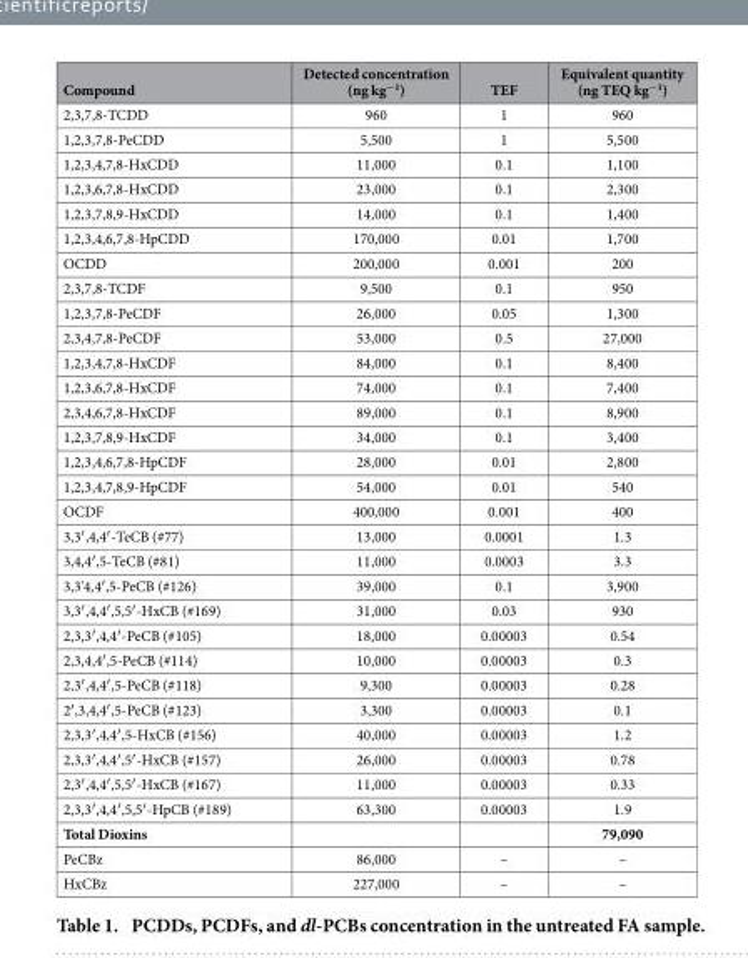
<table><thead><tr><td>Compound</td><td>Detected concentration (ng kg<sup>−1</sup>)</td><td>TEF</td><td>Equivalent quantity (ng TEQ kg<sup>−1</sup>)</td></tr></thead><tbody><tr><td>2,3,7,8-TCDD</td><td>960</td><td>1</td><td>960</td></tr><tr><td>1,2,3,7,8-PeCDD</td><td>5,500</td><td>1</td><td>5,500</td></tr><tr><td>1,2,3,4,7,8-HxCDD</td><td>11,000</td><td>0.1</td><td>1,100</td></tr><tr><td>1,2,3,6,7,8-HxCDD</td><td>23,000</td><td>0.1</td><td>2,300</td></tr><tr><td>1,2,3,7,8,9-HxCDD</td><td>14,000</td><td>0.1</td><td>1,400</td></tr><tr><td>1,2,3,4,6,7,8-HpCDD</td><td>170,000</td><td>0.01</td><td>1,700</td></tr><tr><td>OCDD</td><td>200,000</td><td>0.001</td><td>200</td></tr><tr><td>2,3,7,8-TCDF</td><td>9,500</td><td>0.1</td><td>950</td></tr><tr><td>1,2,3,7,8-PeCDF</td><td>26,000</td><td>0.05</td><td>1,300</td></tr><tr><td>2,3,4,7,8-PeCDF</td><td>53,000</td><td>0.5</td><td>27,000</td></tr><tr><td>1,2,3,4,7,8-HxCDF</td><td>84,000</td><td>0.1</td><td>8,400</td></tr><tr><td>1,2,3,6,7,8-HxCDF</td><td>74,000</td><td>0.1</td><td>7,400</td></tr><tr><td>2,3,4,6,7,8-HxCDF</td><td>89,000</td><td>0.1</td><td>8,900</td></tr><tr><td>1,2,3,7,8,9-HxCDF</td><td>34,000</td><td>0.1</td><td>3,400</td></tr><tr><td>1,2,3,4,6,7,8-HpCDF</td><td>28,000</td><td>0.01</td><td>2,800</td></tr><tr><td>1,2,3,4,7,8,9-HpCDF</td><td>54,000</td><td>0.01</td><td>540</td></tr><tr><td>OCDF</td><td>400,000</td><td>0.001</td><td>400</td></tr><tr><td>3,3′ ,4,4′ -TeCB (#77)</td><td>13,000</td><td>0.0001</td><td>1.3</td></tr><tr><td>3,4,4′ ,5-TeCB (#81)</td><td>11,000</td><td>0.0003</td><td>3.3</td></tr><tr><td>3,3&#x27;4,4′ ,5-PeCB (#126)</td><td>39,000</td><td>0.1</td><td>3,900</td></tr><tr><td>3,3′ ,4,4′ ,5,5′ -HxCB (#169)</td><td>31,000</td><td>0.03</td><td>930</td></tr><tr><td>2,3,3′ ,4,4′ -PeCB (#105)</td><td>18,000</td><td>0.00003</td><td>0.54</td></tr><tr><td>2,3,4,4′ ,5-PeCB (#114)</td><td>10,000</td><td>0.00003</td><td>0.3</td></tr><tr><td>2,3′ ,4,4′ ,5-PeCB (#118)</td><td>9,300</td><td>0.00003</td><td>0.28</td></tr><tr><td>2′ ,3,4,4′ ,5-PeCB (#123)</td><td>3,300</td><td>0.00003</td><td>0.1</td></tr><tr><td>2,3,3′ ,4,4′ ,5-HxCB (#156)</td><td>40,000</td><td>0.00003</td><td>1.2</td></tr><tr><td>2,3,3′ ,4,4′ ,5′ -HxCB (#157)</td><td>26,000</td><td>0.00003</td><td>0.78</td></tr><tr><td>2,3′ ,4,4′ ,5,5′ -HxCB (#167)</td><td>11,000</td><td>0.00003</td><td>0.33</td></tr><tr><td>2,3,3′ ,4,4′ ,5,5′ -HpCB (#189)</td><td>63,300</td><td>0.00003</td><td>1.9</td></tr><tr><td>Total Dioxins</td><td></td><td></td><td>79,090</td></tr><tr><td>PeCBz</td><td>86,000</td><td>–</td><td>–</td></tr><tr><td>HxCBz</td><td>227,000</td><td>–</td><td>–</td></tr></tbody></table>